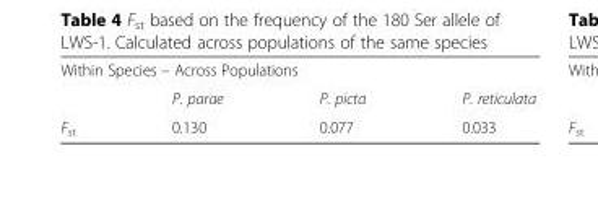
<table><tbody><tr><td colspan="4">Within Species – Across Populations</td></tr><tr><td></td><td>P. parae</td><td>P. picta</td><td>P. reticulata</td></tr><tr><td>F<sub>st</sub></td><td>0.130</td><td>0.077</td><td>0.033</td></tr></tbody></table>